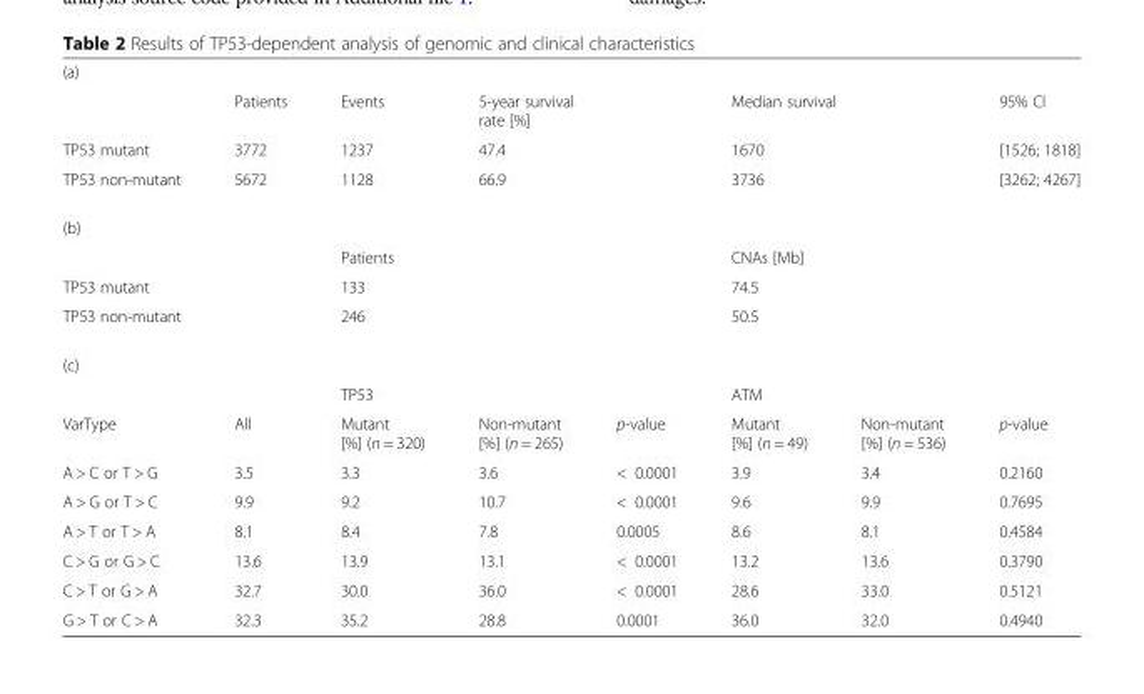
<table><tbody><tr><td colspan="8">(a)</td></tr><tr><td></td><td>Patients</td><td>Events</td><td colspan="2">5-year survival rate [%]</td><td colspan="2">Median survival</td><td>95% CI</td></tr><tr><td>TP53 mutant</td><td>3772</td><td>1237</td><td colspan="2">47.4</td><td colspan="2">1670</td><td>[1526; 1818]</td></tr><tr><td>TP53 non-mutant</td><td>5672</td><td>1128</td><td colspan="2">66.9</td><td colspan="2">3736</td><td>[3262; 4267]</td></tr><tr><td colspan="8">(b)</td></tr><tr><td colspan="2"></td><td colspan="3">Patients</td><td colspan="3">CNAs [Mb]</td></tr><tr><td colspan="2">TP53 mutant</td><td colspan="3">133</td><td colspan="3">74.5</td></tr><tr><td colspan="2">TP53 non-mutant</td><td colspan="3">246</td><td colspan="3">50.5</td></tr><tr><td colspan="8">(c)</td></tr><tr><td></td><td></td><td colspan="3">TP53</td><td colspan="3">ATM</td></tr><tr><td>VarType</td><td>All</td><td>Mutant [%] (n = 320)</td><td>Non-mutant [%] (n = 265)</td><td>p-value</td><td>Mutant [%] (n = 49)</td><td>Non-mutant [%] (n = 536)</td><td>p-value</td></tr><tr><td>A &gt; C or T &gt; G</td><td>3.5</td><td>3.3</td><td>3.6</td><td>&lt; 0.0001</td><td>3.9</td><td>3.4</td><td>0.2160</td></tr><tr><td>A &gt; G or T &gt; C</td><td>9.9</td><td>9.2</td><td>10.7</td><td>&lt; 0.0001</td><td>9.6</td><td>9.9</td><td>0.7695</td></tr><tr><td>A &gt; T or T &gt; A</td><td>8.1</td><td>8.4</td><td>7.8</td><td>0.0005</td><td>8.6</td><td>8.1</td><td>0.4584</td></tr><tr><td>C &gt; G or G &gt; C</td><td>13.6</td><td>13.9</td><td>13.1</td><td>&lt; 0.0001</td><td>13.2</td><td>13.6</td><td>0.3790</td></tr><tr><td>C &gt; T or G &gt; A</td><td>32.7</td><td>30.0</td><td>36.0</td><td>&lt; 0.0001</td><td>28.6</td><td>33.0</td><td>0.5121</td></tr><tr><td>G &gt; T or C &gt; A</td><td>32.3</td><td>35.2</td><td>28.8</td><td>0.0001</td><td>36.0</td><td>32.0</td><td>0.4940</td></tr></tbody></table>